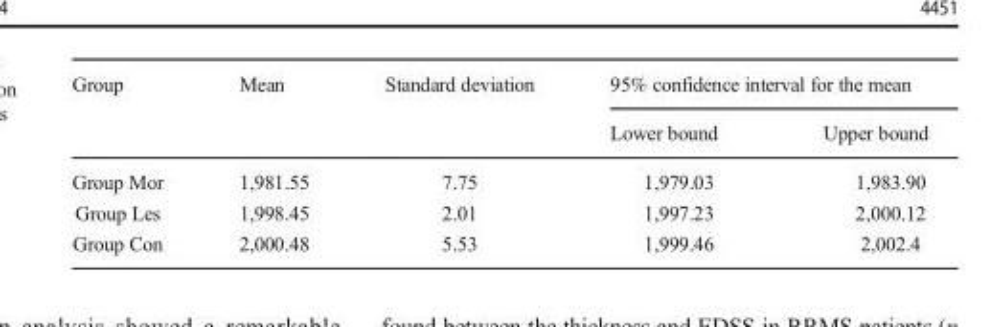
<table><thead><tr><td rowspan="2">Group</td><td rowspan="2">Mean</td><td rowspan="2">Standard deviation</td><td colspan="2">95% confidence interval for the mean</td></tr><tr><td>Lower bound</td><td>Upper bound</td></tr></thead><tbody><tr><td>Group Mor</td><td>1,981.55</td><td>7.75</td><td>1,979.03</td><td>1,983.90</td></tr><tr><td>Group Les</td><td>1,998.45</td><td>2.01</td><td>1,997.23</td><td>2,000.12</td></tr><tr><td>Group Con</td><td>2,000.48</td><td>5.53</td><td>1,999.46</td><td>2,002.4</td></tr></tbody></table>